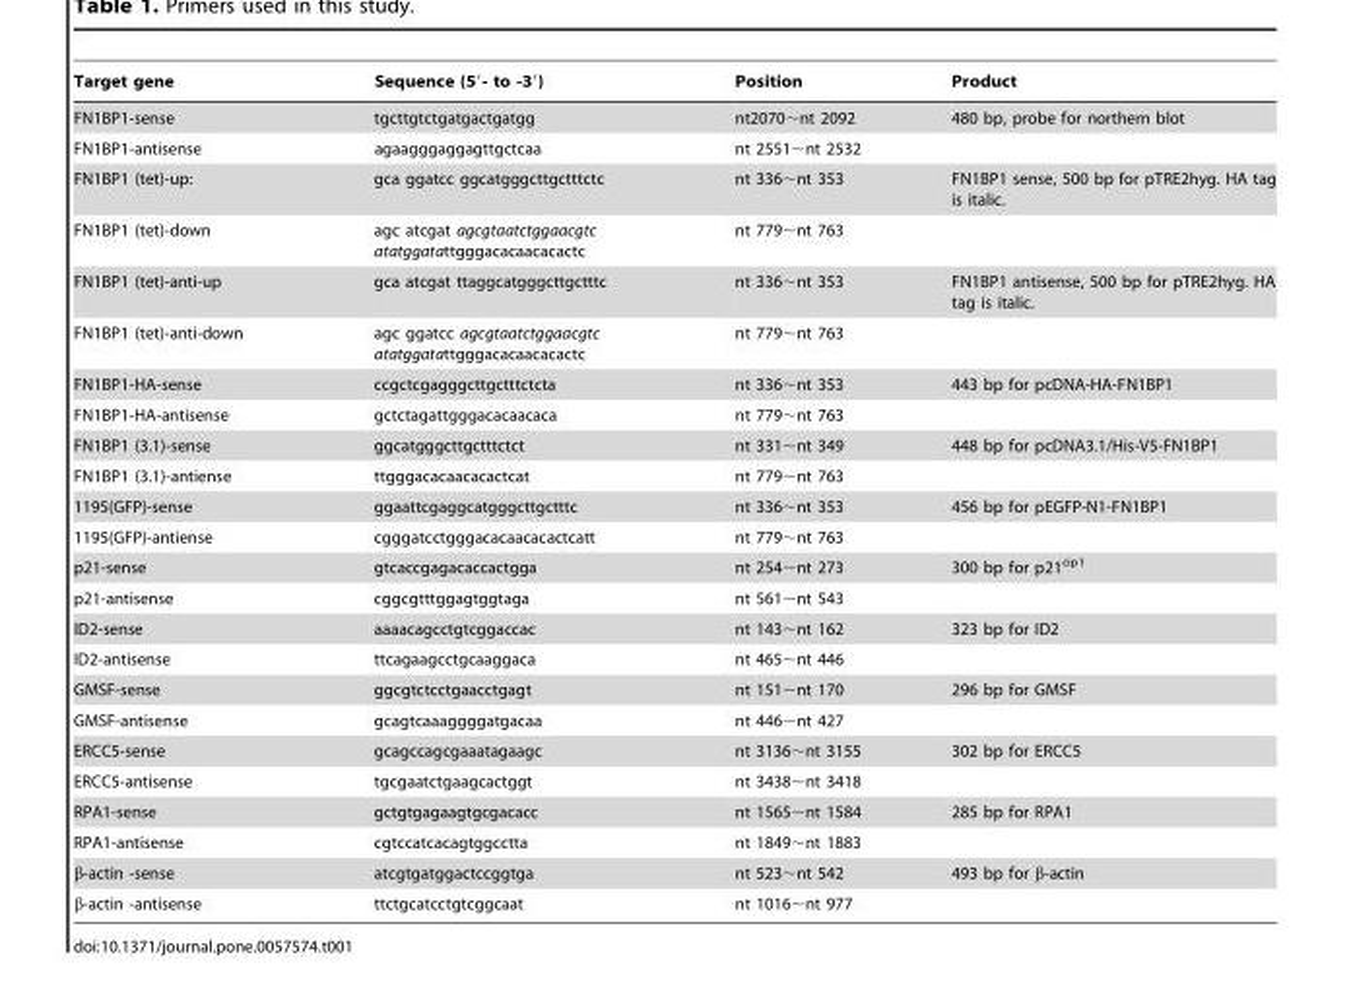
<table><thead><tr><td>Target gene</td><td>Sequence (5′- to -3′)</td><td>Position</td><td>Product</td></tr></thead><tbody><tr><td>FN1BP1-sense</td><td>tgcttgtctgatgactgatgg</td><td>nt2070∼nt 2092</td><td>480 bp, probe for northern blot</td></tr><tr><td>FN1BP1-antisense</td><td>agaagggaggagttgctcaa</td><td>nt 2551∼nt 2532</td><td></td></tr><tr><td>FN1BP1 (tet)-up:</td><td>gca ggatcc ggcatgggcttgctttctc</td><td>nt 336∼nt 353</td><td>FN1BP1 sense, 500 bp for pTRE2hyg. HA tag is italic.</td></tr><tr><td>FN1BP1 (tet)-down</td><td>agc atcgat agcgtaatctggaacgtc atatggatattgggacacaacacactc</td><td>nt 779∼nt 763</td><td></td></tr><tr><td>FN1BP1 (tet)-anti-up</td><td>gca atcgat ttaggcatgggcttgctttc</td><td>nt 336∼nt 353</td><td>FN1BP1 antisense, 500 bp for pTRE2hyg. HA tag is italic.</td></tr><tr><td>FN1BP1 (tet)-anti-down</td><td>agc ggatcc agcgtaatctggaacgtc atatggatattgggacacaacacactc</td><td>nt 779∼nt 763</td><td></td></tr><tr><td>FN1BP1-HA-sense</td><td>ccgctcgagggcttgctttctcta</td><td>nt 336∼nt 353</td><td>443 bp for pcDNA-HA-FN1BP1</td></tr><tr><td>FN1BP1-HA-antisense</td><td>gctctagattgggacacaacaca</td><td>nt 779∼nt 763</td><td></td></tr><tr><td>FN1BP1 (3.1)-sense</td><td>ggcatgggcttgctttctct</td><td>nt 331∼nt 349</td><td>448 bp for pcDNA3.1/His-V5-FN1BP1</td></tr><tr><td>FN1BP1 (3.1)-antiense</td><td>ttgggacacaacacactcat</td><td>nt 779∼nt 763</td><td></td></tr><tr><td>1195(GFP)-sense</td><td>ggaattcgaggcatgggcttgctttc</td><td>nt 336∼nt 353</td><td>456 bp for pEGFP-N1-FN1BP1</td></tr><tr><td>1195(GFP)-antiense</td><td>cgggatcctgggacacaacacactcatt</td><td>nt 779∼nt 763</td><td></td></tr><tr><td>p21-sense</td><td>gtcaccgagacaccactgga</td><td>nt 254∼nt 273</td><td>300 bp for p21<sup>cip1</sup></td></tr><tr><td>p21-antisense</td><td>cggcgtttggagtggtaga</td><td>nt 561∼nt 543</td><td></td></tr><tr><td>ID2-sense</td><td>aaaacagcctgtcggaccac</td><td>nt 143∼nt 162</td><td>323 bp for ID2</td></tr><tr><td>ID2-antisense</td><td>ttcagaagcctgcaaggaca</td><td>nt 465∼nt 446</td><td></td></tr><tr><td>GMSF-sense</td><td>ggcgtctcctgaacctgagt</td><td>nt 151∼nt 170</td><td>296 bp for GMSF</td></tr><tr><td>GMSF-antisense</td><td>gcagtcaaaggggatgacaa</td><td>nt 446∼nt 427</td><td></td></tr><tr><td>ERCC5-sense</td><td>gcagccagcgaaatagaagc</td><td>nt 3136∼nt 3155</td><td>302 bp for ERCC5</td></tr><tr><td>ERCC5-antisense</td><td>tgcgaatctgaagcactggt</td><td>nt 3438∼nt 3418</td><td></td></tr><tr><td>RPA1-sense</td><td>gctgtgagaagtgcgacacc</td><td>nt 1565∼nt 1584</td><td>285 bp for RPA1</td></tr><tr><td>RPA1-antisense</td><td>cgtccatcacagtggcctta</td><td>nt 1849∼nt 1883</td><td></td></tr><tr><td>β-actin -sense</td><td>atcgtgatggactccggtga</td><td>nt 523∼nt 542</td><td>493 bp for β-actin</td></tr><tr><td>β-actin -antisense</td><td>ttctgcatcctgtcggcaat</td><td>nt 1016∼nt 977</td><td></td></tr></tbody></table>